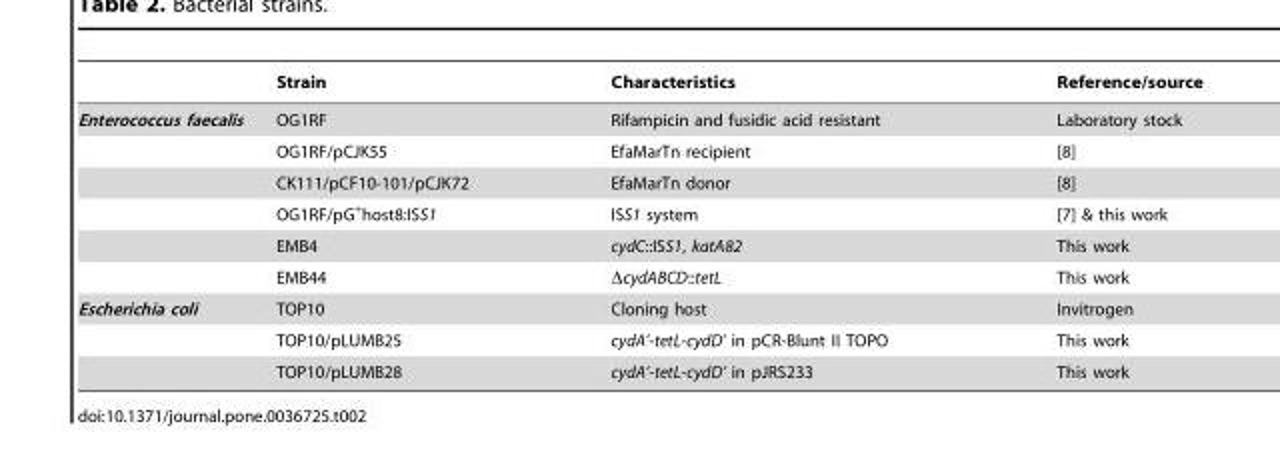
<table><thead><tr><td></td><td>Strain</td><td>Characteristics</td><td>Reference/source</td></tr></thead><tbody><tr><td rowspan="6">Enterococcus faecalis</td><td>OG1RF</td><td>Rifampicin and fusidic acid resistant</td><td>Laboratory stock</td></tr><tr><td>OG1RF/pCJK55</td><td>EfaMarTn recipient</td><td>[8]</td></tr><tr><td>CK111/pCF10-101/pCJK72</td><td>EfaMarTn donor</td><td>[8]</td></tr><tr><td>OG1RF/pG<sup>+</sup>host8:ISS1</td><td>ISS1 system</td><td>[7] &amp; this work</td></tr><tr><td>EMB4</td><td>cydC::ISS1, katA82</td><td>This work</td></tr><tr><td>EMB44</td><td>ΔcydABCD::tetL</td><td>This work</td></tr><tr><td rowspan="3">Escherichia coli</td><td>TOP10</td><td>Cloning host</td><td>Invitrogen</td></tr><tr><td>TOP10/pLUMB25</td><td>cydA’-tetL-cydD’ in pCR-Blunt II TOPO</td><td>This work</td></tr><tr><td>TOP10/pLUMB28</td><td>cydA’-tetL-cydD’ in pJRS233</td><td>This work</td></tr></tbody></table>